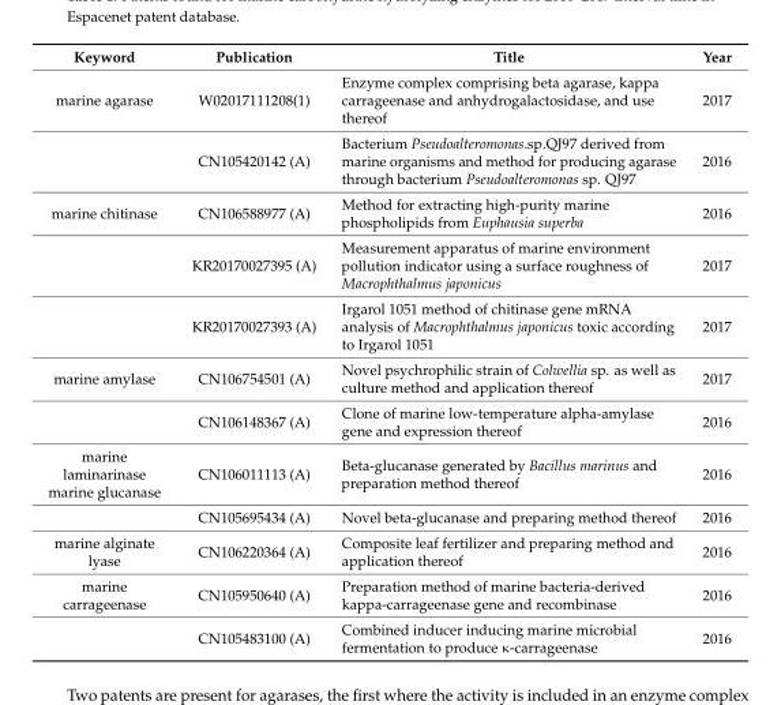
<table><thead><tr><td>Keyword</td><td>Publication</td><td>Title</td><td>Year</td></tr></thead><tbody><tr><td rowspan="2">marine agarase</td><td>W02017111208(1)</td><td>Enzyme complex comprising beta agarase, kappa carrageenase and anhydrogalactosidase, and use thereof</td><td>2017</td></tr><tr><td>CN105420142 (A)</td><td>Bacterium Pseudoalteromonas.sp.QJ97 derived from marine organisms and method for producing agarase through bacterium Pseudoalteromonas sp. QJ97</td><td>2016</td></tr><tr><td rowspan="3">marine chitinase</td><td>CN106588977 (A)</td><td>Method for extracting high-purity marine phospholipids from Euphausia superba</td><td>2016</td></tr><tr><td>KR20170027395 (A)</td><td>Measurement apparatus of marine environment pollution indicator using a surface roughness of Macrophthalmus japonicus</td><td>2017</td></tr><tr><td>KR20170027393 (A)</td><td>Irgarol 1051 method of chitinase gene mRNA analysis of Macrophthalmus japonicus toxic according to Irgarol 1051</td><td>2017</td></tr><tr><td rowspan="2">marine amylase</td><td>CN106754501 (A)</td><td>Novel psychrophilic strain of Colwellia sp. as well as culture method and application thereof</td><td>2017</td></tr><tr><td>CN106148367 (A)</td><td>Clone of marine low-temperature alpha-amylase gene and expression thereof</td><td>2016</td></tr><tr><td rowspan="2">marine laminarinase marine glucanase</td><td>CN106011113 (A)</td><td>Beta-glucanase generated by Bacillus marinus and preparation method thereof</td><td>2016</td></tr><tr><td>CN105695434 (A)</td><td>Novel beta-glucanase and preparing method thereof</td><td>2016</td></tr><tr><td>marine alginate lyase</td><td>CN106220364 (A)</td><td>Composite leaf fertilizer and preparing method and application thereof</td><td>2016</td></tr><tr><td rowspan="2">marine carrageenase</td><td>CN105950640 (A)</td><td>Preparation method of marine bacteria-derived kappa-carrageenase gene and recombinase</td><td>2016</td></tr><tr><td>CN105483100 (A)</td><td>Combined inducer inducing marine microbial fermentation to produce κ-carrageenase</td><td>2016</td></tr></tbody></table>